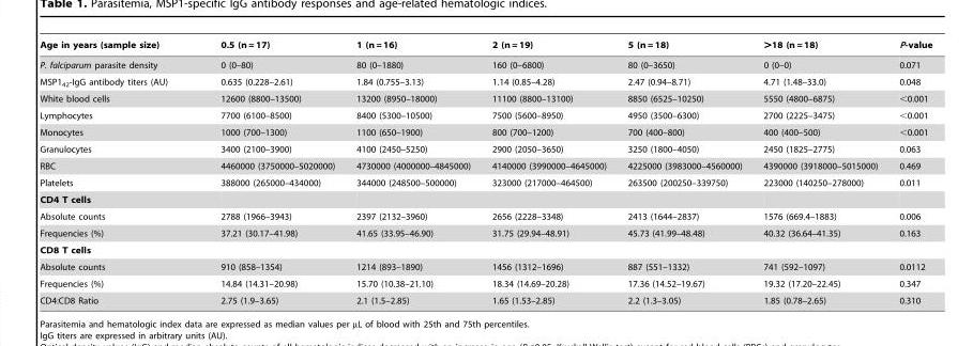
<table><thead><tr><td>Age in years (sample size)</td><td>0.5 (n = 17)</td><td>1 (n = 16)</td><td>2 (n = 19)</td><td>5 (n = 18)</td><td>&gt;18 (n = 18)</td><td>P-value</td></tr></thead><tbody><tr><td>P. falciparum parasite density</td><td>0 (0–80)</td><td>80 (0–1880)</td><td>160 (0–6800)</td><td>80 (0–3650)</td><td>0 (0–0)</td><td>0.071</td></tr><tr><td>MSP1<sub>42</sub>-IgG antibody titers (AU)</td><td>0.635 (0.228–2.61)</td><td>1.84 (0.755–3.13)</td><td>1.14 (0.85–4.28)</td><td>2.47 (0.94–8.71)</td><td>4.71 (1.48–33.0)</td><td>0.048</td></tr><tr><td>White blood cells</td><td>12600 (8800–13500)</td><td>13200 (8950–18000)</td><td>11100 (8800–13100)</td><td>8850 (6525–10250)</td><td>5550 (4800–6875)</td><td>&lt;0.001</td></tr><tr><td>Lymphocytes</td><td>7700 (6100–8500)</td><td>8400 (5300–10500)</td><td>7500 (5600–8950)</td><td>4950 (3500–6300)</td><td>2700 (2225–3475)</td><td>&lt;0.001</td></tr><tr><td>Monocytes</td><td>1000 (700–1300)</td><td>1100 (650–1900)</td><td>800 (700–1200)</td><td>700 (400–800)</td><td>400 (400–500)</td><td>&lt;0.001</td></tr><tr><td>Granulocytes</td><td>3400 (2100–3900)</td><td>4100 (2450–5250)</td><td>2900 (2050–3650)</td><td>3250 (1800–4050)</td><td>2450 (1825–2775)</td><td>0.063</td></tr><tr><td>RBC</td><td>4460000 (3750000–5020000)</td><td>4730000 (4000000–4845000)</td><td>4140000 (3990000–4645000)</td><td>4225000 (3983000–4560000)</td><td>4390000 (3918000–5015000)</td><td>0.469</td></tr><tr><td>Platelets</td><td>388000 (265000–434000)</td><td>344000 (248500–500000)</td><td>323000 (217000–464500)</td><td>263500 (200250–339750)</td><td>223000 (140250–278000)</td><td>0.011</td></tr><tr><td colspan="7">CD4 T cells</td></tr><tr><td>Absolute counts</td><td>2788 (1966–3943)</td><td>2397 (2132–3960)</td><td>2656 (2228–3348)</td><td>2413 (1644–2837)</td><td>1576 (669.4–1883)</td><td>0.006</td></tr><tr><td>Frequencies (%)</td><td>37.21 (30.17–41.98)</td><td>41.65 (33.95–46.90)</td><td>31.75 (29.94–48.91)</td><td>45.73 (41.99–48.48)</td><td>40.32 (36.64–41.35)</td><td>0.163</td></tr><tr><td colspan="7">CD8 T cells</td></tr><tr><td>Absolute counts</td><td>910 (858–1354)</td><td>1214 (893–1890)</td><td>1456 (1312–1696)</td><td>887 (551–1332)</td><td>741 (592–1097)</td><td>0.0112</td></tr><tr><td>Frequencies (%)</td><td>14.84 (14.31–20.98)</td><td>15.70 (10.38–21.10)</td><td>18.34 (14.69–20.28)</td><td>17.36 (14.52–19.67)</td><td>19.32 (17.20–22.45)</td><td>0.347</td></tr><tr><td>CD4:CD8 Ratio</td><td>2.75 (1.9–3.65)</td><td>2.1 (1.5–2.85)</td><td>1.65 (1.53–2.85)</td><td>2.2 (1.3–3.05)</td><td>1.85 (0.78–2.65)</td><td>0.310</td></tr></tbody></table>